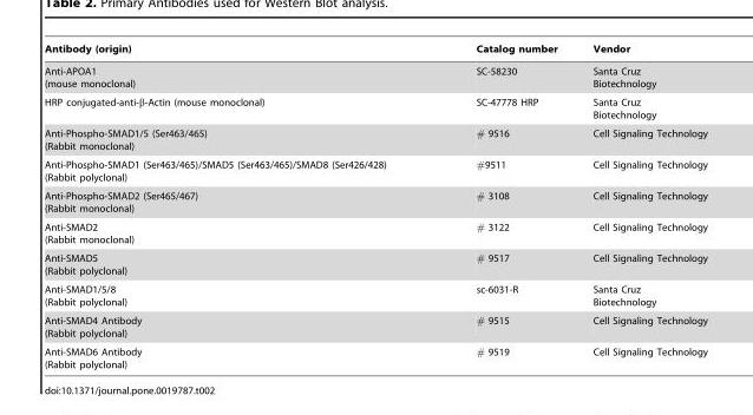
<table><thead><tr><td>Antibody (origin)</td><td>Catalog number</td><td>Vendor</td></tr></thead><tbody><tr><td>Anti-APOA1 (mouse monoclonal)</td><td>SC-58230</td><td>Santa Cruz Biotechnology</td></tr><tr><td>HRP conjugated-anti-β-Actin (mouse monoclonal)</td><td>SC-47778 HRP</td><td>Santa Cruz Biotechnology</td></tr><tr><td>Anti-Phospho-SMAD1/5 (Ser463/465) (Rabbit monoclonal)</td><td># 9516</td><td>Cell Signaling Technology</td></tr><tr><td>Anti-Phospho-SMAD1 (Ser463/465)/SMAD5 (Ser463/465)/SMAD8 (Ser426/428) (Rabbit polyclonal)</td><td>#9511</td><td>Cell Signaling Technology</td></tr><tr><td>Anti-Phospho-SMAD2 (Ser465/467) (Rabbit monoclonal)</td><td># 3108</td><td>Cell Signaling Technology</td></tr><tr><td>Anti-SMAD2 (Rabbit monoclonal)</td><td># 3122</td><td>Cell Signaling Technology</td></tr><tr><td>Anti-SMAD5 (Rabbit polyclonal)</td><td># 9517</td><td>Cell Signaling Technology</td></tr><tr><td>Anti-SMAD1/5/8 (Rabbit polyclonal)</td><td>sc-6031-R</td><td>Santa Cruz Biotechnology</td></tr><tr><td>Anti-SMAD4 Antibody (Rabbit polyclonal)</td><td># 9515</td><td>Cell Signaling Technology</td></tr><tr><td>Anti-SMAD6 Antibody (Rabbit polyclonal)</td><td># 9519</td><td>Cell Signaling Technology</td></tr></tbody></table>